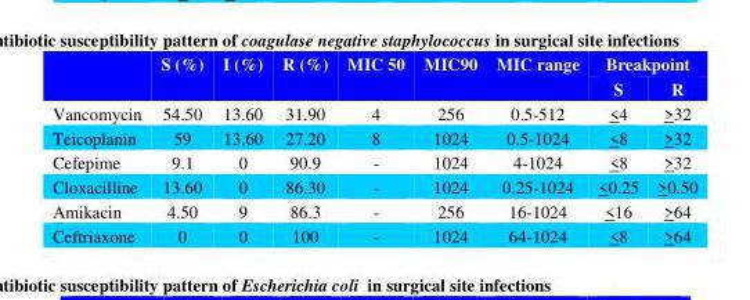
<table><thead><tr><td rowspan="2"></td><td rowspan="2">S (%)</td><td rowspan="2">I (%)</td><td rowspan="2">R (%)</td><td rowspan="2">MIC 50</td><td rowspan="2">MIC90</td><td rowspan="2">MIC range</td><td colspan="2">Breakpoint</td></tr><tr><td>S</td><td>R</td></tr></thead><tbody><tr><td>Vancomycin</td><td>54.50</td><td>13.60</td><td>31.90</td><td>4</td><td>256</td><td>0.5-512</td><td>&lt;4</td><td>&gt;32</td></tr><tr><td>Teicoplanin</td><td>59</td><td>13.60</td><td>27.20</td><td>8</td><td>1024</td><td>0.5-1024</td><td>&lt;8</td><td>&gt;32</td></tr><tr><td>Cefepime</td><td>9.1</td><td>0</td><td>90.9</td><td>-</td><td>1024</td><td>4-1024</td><td>&lt;8</td><td>&gt;32</td></tr><tr><td>Cloxacilline</td><td>13.60</td><td>0</td><td>86.30</td><td>-</td><td>1024</td><td>0.25-1024</td><td>&lt;0.25</td><td>&gt;0.50</td></tr><tr><td>Amikacin</td><td>4.50</td><td>9</td><td>86.3</td><td>-</td><td>256</td><td>16-1024</td><td>&lt;16</td><td>&gt;64</td></tr><tr><td>Ceftriaxone</td><td>0</td><td>0</td><td>100</td><td>-</td><td>1024</td><td>64-1024</td><td>&lt;8</td><td>&gt;64</td></tr></tbody></table>